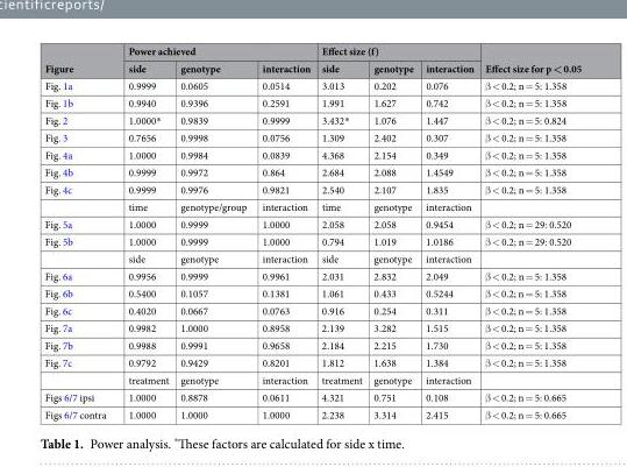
<table><thead><tr><td rowspan="2">Figure</td><td colspan="3">Power achieved</td><td colspan="3">Effect size (f)</td><td rowspan="2">Effect size for p &lt; 0.05</td></tr><tr><td>side</td><td>genotype</td><td>interaction</td><td>side</td><td>genotype</td><td>interaction</td></tr></thead><tbody><tr><td>Fig. 1a</td><td>0.9999</td><td>0.0605</td><td>0.0514</td><td>3.013</td><td>0.202</td><td>0.076</td><td>β &lt; 0.2; n = 5: 1.358</td></tr><tr><td>Fig. 1b</td><td>0.9940</td><td>0.9396</td><td>0.2591</td><td>1.991</td><td>1.627</td><td>0.742</td><td>β &lt; 0.2; n = 5: 1.358</td></tr><tr><td>Fig. 2</td><td>1.0000*</td><td>0.9839</td><td>0.9999</td><td>3.432*</td><td>1.076</td><td>1.447</td><td>β &lt; 0.2; n = 5: 0.824</td></tr><tr><td>Fig. 3</td><td>0.7656</td><td>0.9998</td><td>0.0756</td><td>1.309</td><td>2.402</td><td>0.307</td><td>β &lt; 0.2; n = 5: 1.358</td></tr><tr><td>Fig. 4a</td><td>1.0000</td><td>0.9984</td><td>0.0839</td><td>4.368</td><td>2.154</td><td>0.349</td><td>β &lt; 0.2; n = 5: 1.358</td></tr><tr><td>Fig. 4b</td><td>0.9999</td><td>0.9972</td><td>0.864</td><td>2.684</td><td>2.088</td><td>1.4549</td><td>β &lt; 0.2; n = 5: 1.358</td></tr><tr><td rowspan="2">Fig. 4c</td><td>0.9999</td><td>0.9976</td><td>0.9821</td><td>2.540</td><td>2.107</td><td>1.835</td><td>β &lt; 0.2; n = 5: 1.358</td></tr><tr><td>time</td><td>genotype/group</td><td>interaction</td><td>time</td><td>genotype</td><td>interaction</td><td></td></tr><tr><td>Fig. 5a</td><td>1.0000</td><td>0.9999</td><td>1.0000</td><td>2.058</td><td>2.058</td><td>0.9454</td><td>β &lt; 0.2; n = 29: 0.520</td></tr><tr><td rowspan="2">Fig. 5b</td><td>1.0000</td><td>0.9999</td><td>1.0000</td><td>0.794</td><td>1.019</td><td>1.0186</td><td>β &lt; 0.2; n = 29: 0.520</td></tr><tr><td>side</td><td>genotype</td><td>interaction</td><td>side</td><td>genotype</td><td>interaction</td><td></td></tr><tr><td>Fig. 6a</td><td>0.9956</td><td>0.9999</td><td>0.9961</td><td>2.031</td><td>2.832</td><td>2.049</td><td>β &lt; 0.2; n = 5: 1.358</td></tr><tr><td>Fig. 6b</td><td>0.5400</td><td>0.1057</td><td>0.1381</td><td>1.061</td><td>0.433</td><td>0.5244</td><td>β &lt; 0.2; n = 5: 1.358</td></tr><tr><td>Fig. 6c</td><td>0.4020</td><td>0.0667</td><td>0.0763</td><td>0.916</td><td>0.254</td><td>0.311</td><td>β &lt; 0.2; n = 5: 1.358</td></tr><tr><td>Fig. 7a</td><td>0.9982</td><td>1.0000</td><td>0.8958</td><td>2.139</td><td>3.282</td><td>1.515</td><td>β &lt; 0.2; n = 5: 1.358</td></tr><tr><td>Fig. 7b</td><td>0.9988</td><td>0.9991</td><td>0.9658</td><td>2.184</td><td>2.215</td><td>1.730</td><td>β &lt; 0.2; n = 5: 1.358</td></tr><tr><td rowspan="2">Fig. 7c</td><td>0.9792</td><td>0.9429</td><td>0.8201</td><td>1.812</td><td>1.638</td><td>1.384</td><td>β &lt; 0.2; n = 5: 1.358</td></tr><tr><td>treatment</td><td>genotype</td><td>interaction</td><td>treatment</td><td>genotype</td><td>interaction</td><td></td></tr><tr><td>Figs 6/7 ipsi</td><td>1.0000</td><td>0.8878</td><td>0.0611</td><td>4.321</td><td>0.751</td><td>0.108</td><td>β &lt; 0.2; n = 5: 0.665</td></tr><tr><td>Figs 6/7 contra</td><td>1.0000</td><td>1.0000</td><td>1.0000</td><td>2.238</td><td>3.314</td><td>2.415</td><td>β &lt; 0.2; n = 5: 0.665</td></tr></tbody></table>